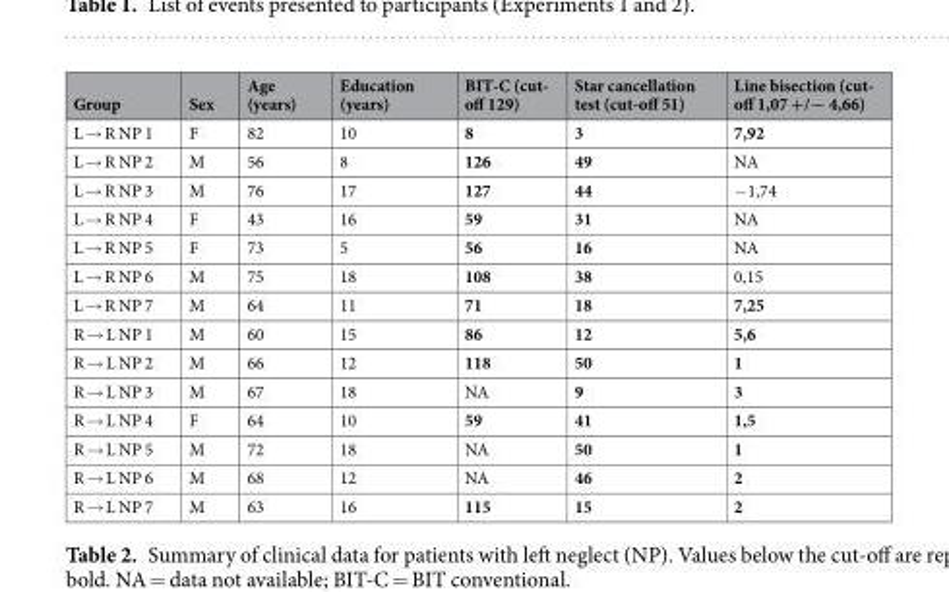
<table><thead><tr><td>Group</td><td>Sex</td><td>Age (years)</td><td>Education (years)</td><td>BIT-C (cut- off 129)</td><td>Star cancellation test (cut-off 51)</td><td>Line bisection (cut- off 1,07 +/− 4,66)</td></tr></thead><tbody><tr><td>L → R NP 1</td><td>F</td><td>82</td><td>10</td><td>8</td><td>3</td><td>7,92</td></tr><tr><td>L → R NP 2</td><td>M</td><td>56</td><td>8</td><td>126</td><td>49</td><td>NA</td></tr><tr><td>L → R NP 3</td><td>M</td><td>76</td><td>17</td><td>127</td><td>44</td><td>−1,74</td></tr><tr><td>L → R NP 4</td><td>F</td><td>43</td><td>16</td><td>59</td><td>31</td><td>NA</td></tr><tr><td>L → R NP 5</td><td>F</td><td>73</td><td>5</td><td>56</td><td>16</td><td>NA</td></tr><tr><td>L → R NP 6</td><td>M</td><td>75</td><td>18</td><td>108</td><td>38</td><td>0,15</td></tr><tr><td>L → R NP 7</td><td>M</td><td>64</td><td>11</td><td>71</td><td>18</td><td>7,25</td></tr><tr><td>R → L NP 1</td><td>M</td><td>60</td><td>15</td><td>86</td><td>12</td><td>5,6</td></tr><tr><td>R → L NP 2</td><td>M</td><td>66</td><td>12</td><td>118</td><td>50</td><td>1</td></tr><tr><td>R → L NP 3</td><td>M</td><td>67</td><td>18</td><td>NA</td><td>9</td><td>3</td></tr><tr><td>R → L NP 4</td><td>F</td><td>64</td><td>10</td><td>59</td><td>41</td><td>1,5</td></tr><tr><td>R → L NP 5</td><td>M</td><td>72</td><td>18</td><td>NA</td><td>50</td><td>1</td></tr><tr><td>R → L NP 6</td><td>M</td><td>68</td><td>12</td><td>NA</td><td>46</td><td>2</td></tr><tr><td>R → L NP 7</td><td>M</td><td>63</td><td>16</td><td>115</td><td>15</td><td>2</td></tr></tbody></table>